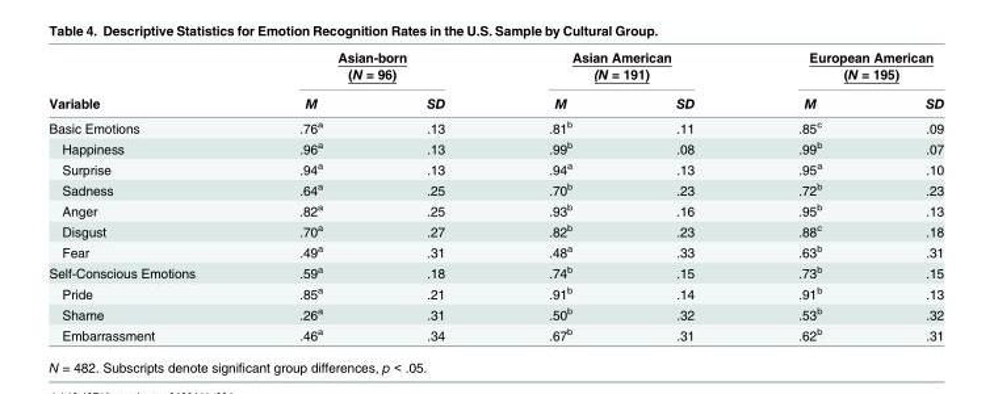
<table><thead><tr><td rowspan="3">Variable</td><td rowspan="2" colspan="2">Asian-born (N = 96)</td><td rowspan="2" colspan="2">Asian American (N = 191)</td><td rowspan="2" colspan="2">European American (N = 195)</td></tr><tr></tr><tr><td>M</td><td>SD</td><td>M</td><td>SD</td><td>M</td><td>SD</td></tr></thead><tbody><tr><td>Basic Emotions</td><td>.76<sup>a</sup></td><td>.13</td><td>.81<sup>b</sup></td><td>.11</td><td>.85<sup>c</sup></td><td>.09</td></tr><tr><td>Happiness</td><td>.96<sup>a</sup></td><td>.13</td><td>.99<sup>b</sup></td><td>.08</td><td>.99<sup>b</sup></td><td>.07</td></tr><tr><td>Surprise</td><td>.94<sup>a</sup></td><td>.13</td><td>.94<sup>a</sup></td><td>.13</td><td>.95<sup>a</sup></td><td>.10</td></tr><tr><td>Sadness</td><td>.64<sup>a</sup></td><td>.25</td><td>.70<sup>b</sup></td><td>.23</td><td>.72<sup>b</sup></td><td>.23</td></tr><tr><td>Anger</td><td>.82<sup>a</sup></td><td>.25</td><td>.93<sup>b</sup></td><td>.16</td><td>.95<sup>b</sup></td><td>.13</td></tr><tr><td>Disgust</td><td>.70<sup>a</sup></td><td>.27</td><td>.82<sup>b</sup></td><td>.23</td><td>.88<sup>c</sup></td><td>.18</td></tr><tr><td>Fear</td><td>.49<sup>a</sup></td><td>.31</td><td>.48<sup>a</sup></td><td>.33</td><td>.63<sup>b</sup></td><td>.31</td></tr><tr><td>Self-Conscious Emotions</td><td>.59<sup>a</sup></td><td>.18</td><td>.74<sup>b</sup></td><td>.15</td><td>.73<sup>b</sup></td><td>.15</td></tr><tr><td>Pride</td><td>.85<sup>a</sup></td><td>.21</td><td>.91<sup>b</sup></td><td>.14</td><td>.91<sup>b</sup></td><td>.13</td></tr><tr><td>Shame</td><td>.26<sup>a</sup></td><td>.31</td><td>.50<sup>b</sup></td><td>.32</td><td>.53<sup>b</sup></td><td>.32</td></tr><tr><td>Embarrassment</td><td>.46<sup>a</sup></td><td>.34</td><td>.67<sup>b</sup></td><td>.31</td><td>.62<sup>b</sup></td><td>.31</td></tr></tbody></table>